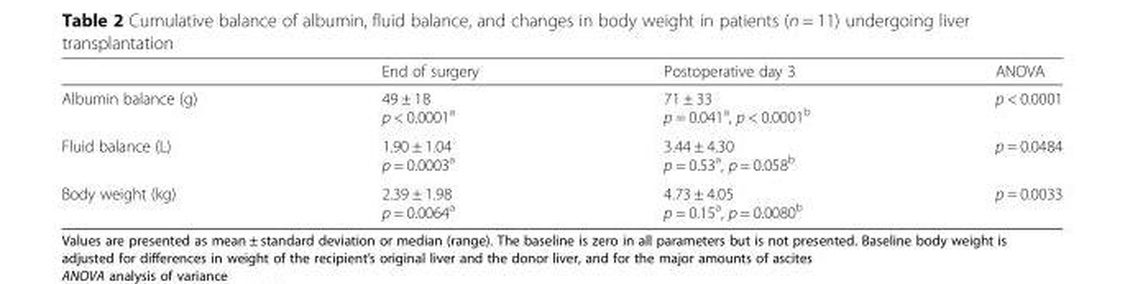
<table><thead><tr><td></td><td>End of surgery</td><td>Postoperative day 3</td><td>ANOVA</td></tr></thead><tbody><tr><td>Albumin balance (g)</td><td>49 ± 18 p &lt; 0.0001<sup>a</sup></td><td>71 ± 33 p = 0.041<sup>a</sup>, p &lt; 0.0001<sup>b</sup></td><td>p &lt; 0.0001</td></tr><tr><td>Fluid balance (L)</td><td>1.90 ± 1.04 p = 0.0003<sup>a</sup></td><td>3.44 ± 4.30 p = 0.53<sup>a</sup>, p = 0.058<sup>b</sup></td><td>p = 0.0484</td></tr><tr><td>Body weight (kg)</td><td>2.39 ± 1.98 p = 0.0064<sup>a</sup></td><td>4.73 ± 4.05 p = 0.15<sup>a</sup>, p = 0.0080<sup>b</sup></td><td>p = 0.0033</td></tr></tbody></table>